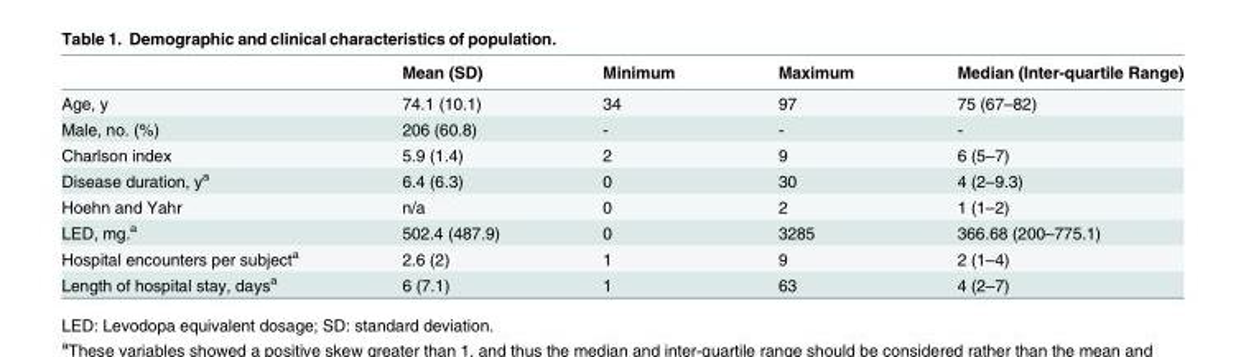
<table><thead><tr><td></td><td>Mean (SD)</td><td>Minimum</td><td>Maximum</td><td>Median (Inter-quartile Range)</td></tr></thead><tbody><tr><td>Age, y</td><td>74.1 (10.1)</td><td>34</td><td>97</td><td>75 (67–82)</td></tr><tr><td>Male, no. (%)</td><td>206 (60.8)</td><td>-</td><td>-</td><td>-</td></tr><tr><td>Charlson index</td><td>5.9 (1.4)</td><td>2</td><td>9</td><td>6 (5–7)</td></tr><tr><td>Disease duration, y<sup>a</sup></td><td>6.4 (6.3)</td><td>0</td><td>30</td><td>4 (2–9.3)</td></tr><tr><td>Hoehn and Yahr</td><td>n/a</td><td>0</td><td>2</td><td>1 (1–2)</td></tr><tr><td>LED, mg.<sup>a</sup></td><td>502.4 (487.9)</td><td>0</td><td>3285</td><td>366.68 (200–775.1)</td></tr><tr><td>Hospital encounters per subject<sup>a</sup></td><td>2.6 (2)</td><td>1</td><td>9</td><td>2 (1–4)</td></tr><tr><td>Length of hospital stay, days<sup>a</sup></td><td>6 (7.1)</td><td>1</td><td>63</td><td>4 (2–7)</td></tr></tbody></table>